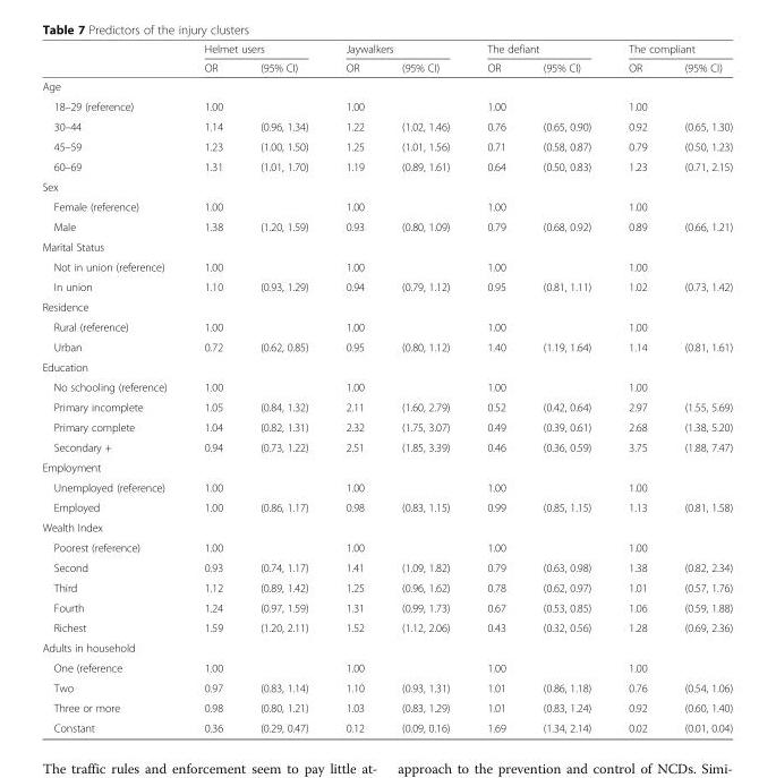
<table><thead><tr><td rowspan="2"></td><td colspan="2">Helmet users</td><td colspan="2">Jaywalkers</td><td colspan="2">The defiant</td><td colspan="2">The compliant</td></tr><tr><td>OR</td><td>(95% CI)</td><td>OR</td><td>(95% CI)</td><td>OR</td><td>(95% CI)</td><td>OR</td><td>(95% CI)</td></tr></thead><tbody><tr><td colspan="9">Age</td></tr><tr><td>18–29 (reference)</td><td>1.00</td><td></td><td>1.00</td><td></td><td>1.00</td><td></td><td>1.00</td><td></td></tr><tr><td>30–44</td><td>1.14</td><td>(0.96, 1.34)</td><td>1.22</td><td>(1.02, 1.46)</td><td>0.76</td><td>(0.65, 0.90)</td><td>0.92</td><td>(0.65, 1.30)</td></tr><tr><td>45–59</td><td>1.23</td><td>(1.00, 1.50)</td><td>1.25</td><td>(1.01, 1.56)</td><td>0.71</td><td>(0.58, 0.87)</td><td>0.79</td><td>(0.50, 1.23)</td></tr><tr><td>60–69</td><td>1.31</td><td>(1.01, 1.70)</td><td>1.19</td><td>(0.89, 1.61)</td><td>0.64</td><td>(0.50, 0.83)</td><td>1.23</td><td>(0.71, 2.15)</td></tr><tr><td colspan="9">Sex</td></tr><tr><td>Female (reference)</td><td>1.00</td><td></td><td>1.00</td><td></td><td>1.00</td><td></td><td>1.00</td><td></td></tr><tr><td>Male</td><td>1.38</td><td>(1.20, 1.59)</td><td>0.93</td><td>(0.80, 1.09)</td><td>0.79</td><td>(0.68, 0.92)</td><td>0.89</td><td>(0.66, 1.21)</td></tr><tr><td colspan="9">Marital Status</td></tr><tr><td>Not in union (reference)</td><td>1.00</td><td></td><td>1.00</td><td></td><td>1.00</td><td></td><td>1.00</td><td></td></tr><tr><td>In union</td><td>1.10</td><td>(0.93, 1.29)</td><td>0.94</td><td>(0.79, 1.12)</td><td>0.95</td><td>(0.81, 1.11)</td><td>1.02</td><td>(0.73, 1.42)</td></tr><tr><td colspan="9">Residence</td></tr><tr><td>Rural (reference)</td><td>1.00</td><td></td><td>1.00</td><td></td><td>1.00</td><td></td><td>1.00</td><td></td></tr><tr><td>Urban</td><td>0.72</td><td>(0.62, 0.85)</td><td>0.95</td><td>(0.80, 1.12)</td><td>1.40</td><td>(1.19, 1.64)</td><td>1.14</td><td>(0.81, 1.61)</td></tr><tr><td colspan="9">Education</td></tr><tr><td>No schooling (reference)</td><td>1.00</td><td></td><td>1.00</td><td></td><td>1.00</td><td></td><td>1.00</td><td></td></tr><tr><td>Primary incomplete</td><td>1.05</td><td>(0.84, 1.32)</td><td>2.11</td><td>(1.60, 2.79)</td><td>0.52</td><td>(0.42, 0.64)</td><td>2.97</td><td>(1.55, 5.69)</td></tr><tr><td>Primary complete</td><td>1.04</td><td>(0.82, 1.31)</td><td>2.32</td><td>(1.75, 3.07)</td><td>0.49</td><td>(0.39, 0.61)</td><td>2.68</td><td>(1.38, 5.20)</td></tr><tr><td>Secondary +</td><td>0.94</td><td>(0.73, 1.22)</td><td>2.51</td><td>(1.85, 3.39)</td><td>0.46</td><td>(0.36, 0.59)</td><td>3.75</td><td>(1.88, 7.47)</td></tr><tr><td colspan="9">Employment</td></tr><tr><td>Unemployed (reference)</td><td>1.00</td><td></td><td>1.00</td><td></td><td>1.00</td><td></td><td>1.00</td><td></td></tr><tr><td>Employed</td><td>1.00</td><td>(0.86, 1.17)</td><td>0.98</td><td>(0.83, 1.15)</td><td>0.99</td><td>(0.85, 1.15)</td><td>1.13</td><td>(0.81, 1.58)</td></tr><tr><td colspan="9">Wealth Index</td></tr><tr><td>Poorest (reference)</td><td>1.00</td><td></td><td>1.00</td><td></td><td>1.00</td><td></td><td>1.00</td><td></td></tr><tr><td>Second</td><td>0.93</td><td>(0.74, 1.17)</td><td>1.41</td><td>(1.09, 1.82)</td><td>0.79</td><td>(0.63, 0.98)</td><td>1.38</td><td>(0.82, 2.34)</td></tr><tr><td>Third</td><td>1.12</td><td>(0.89, 1.42)</td><td>1.25</td><td>(0.96, 1.62)</td><td>0.78</td><td>(0.62, 0.97)</td><td>1.01</td><td>(0.57, 1.76)</td></tr><tr><td>Fourth</td><td>1.24</td><td>(0.97, 1.59)</td><td>1.31</td><td>(0.99, 1.73)</td><td>0.67</td><td>(0.53, 0.85)</td><td>1.06</td><td>(0.59, 1.88)</td></tr><tr><td>Richest</td><td>1.59</td><td>(1.20, 2.11)</td><td>1.52</td><td>(1.12, 2.06)</td><td>0.43</td><td>(0.32, 0.56)</td><td>1.28</td><td>(0.69, 2.36)</td></tr><tr><td colspan="9">Adults in household</td></tr><tr><td>One (reference</td><td>1.00</td><td></td><td>1.00</td><td></td><td>1.00</td><td></td><td>1.00</td><td></td></tr><tr><td>Two</td><td>0.97</td><td>(0.83, 1.14)</td><td>1.10</td><td>(0.93, 1.31)</td><td>1.01</td><td>(0.86, 1.18)</td><td>0.76</td><td>(0.54, 1.06)</td></tr><tr><td>Three or more</td><td>0.98</td><td>(0.80, 1.21)</td><td>1.03</td><td>(0.83, 1.29)</td><td>1.01</td><td>(0.83, 1.24)</td><td>0.92</td><td>(0.60, 1.40)</td></tr><tr><td>Constant</td><td>0.36</td><td>(0.29, 0.47)</td><td>0.12</td><td>(0.09, 0.16)</td><td>1.69</td><td>(1.34, 2.14)</td><td>0.02</td><td>(0.01, 0.04)</td></tr></tbody></table>